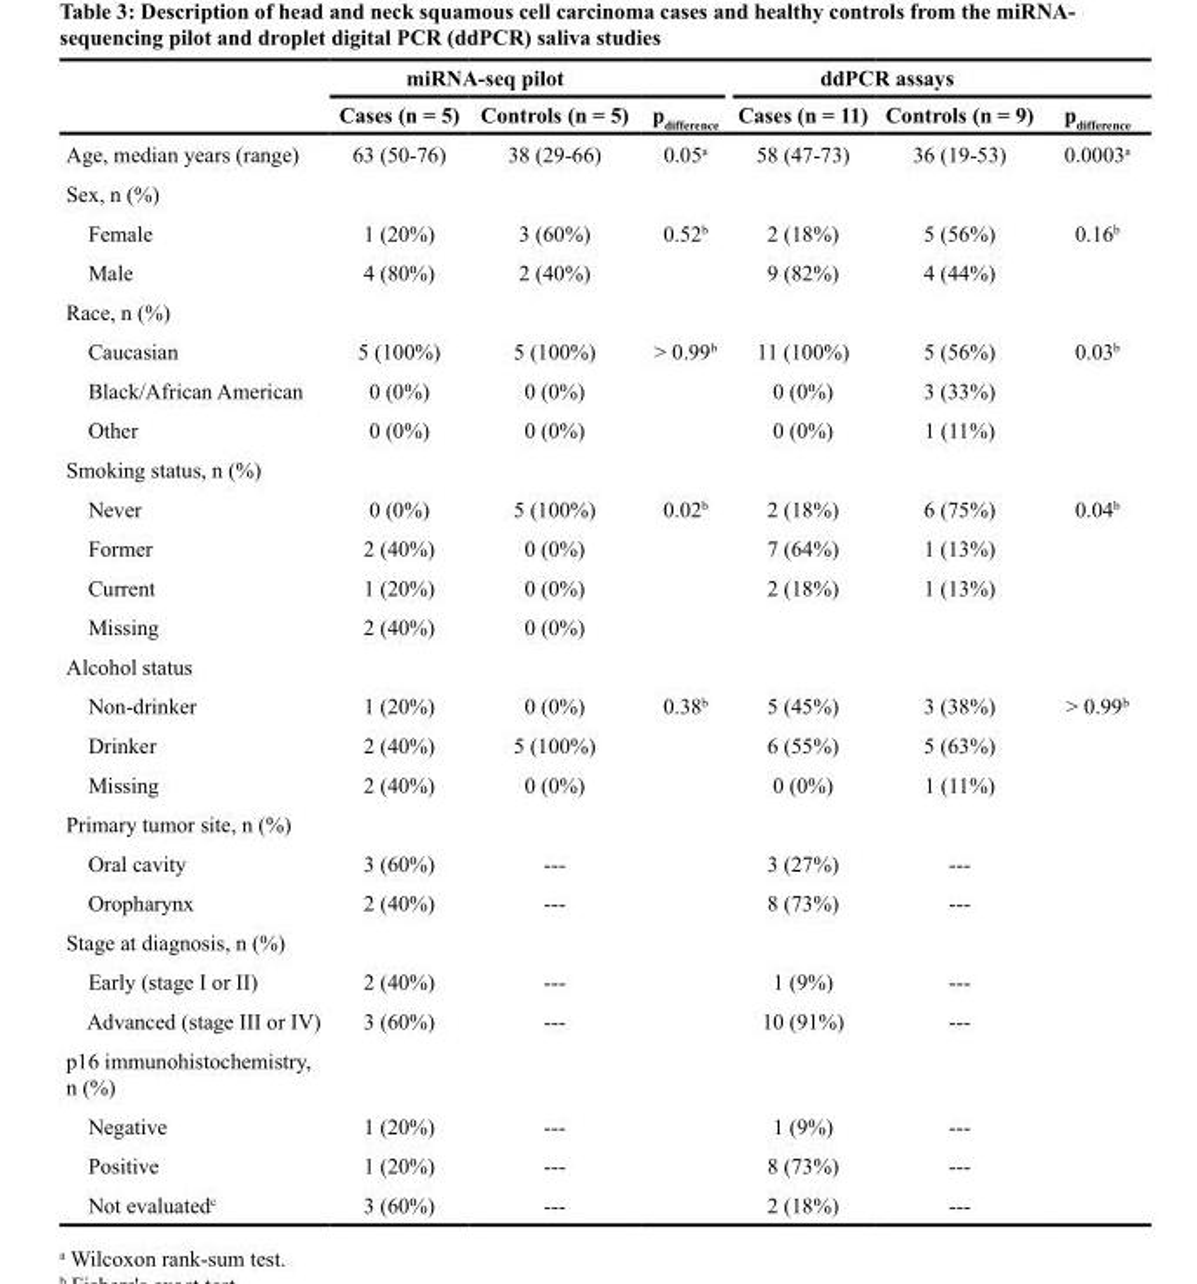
<table><thead><tr><td rowspan="2"></td><td colspan="2">miRNA-seq pilot</td><td rowspan="2">p<sub>difference</sub></td><td colspan="2">ddPCR assays</td><td rowspan="2">p<sub>difference</sub></td></tr><tr><td>Cases (n = 5)</td><td>Controls (n = 5)</td><td>Cases (n = 11)</td><td>Controls (n = 9)</td></tr></thead><tbody><tr><td>Age, median years (range)</td><td>63 (50-76)</td><td>38 (29-66)</td><td>0.05<sup>a</sup></td><td>58 (47-73)</td><td>36 (19-53)</td><td>0.0003<sup>a</sup></td></tr><tr><td colspan="7">Sex, n (%)</td></tr><tr><td>Female</td><td>1 (20%)</td><td>3 (60%)</td><td>0.52<sup>b</sup></td><td>2 (18%)</td><td>5 (56%)</td><td>0.16<sup>b</sup></td></tr><tr><td>Male</td><td>4 (80%)</td><td>2 (40%)</td><td></td><td>9 (82%)</td><td>4 (44%)</td><td></td></tr><tr><td colspan="7">Race, n (%)</td></tr><tr><td>Caucasian</td><td>5 (100%)</td><td>5 (100%)</td><td>&gt; 0.99<sup>b</sup></td><td>11 (100%)</td><td>5 (56%)</td><td>0.03<sup>b</sup></td></tr><tr><td>Black/African American</td><td>0 (0%)</td><td>0 (0%)</td><td></td><td>0 (0%)</td><td>3 (33%)</td><td></td></tr><tr><td>Other</td><td>0 (0%)</td><td>0 (0%)</td><td></td><td>0 (0%)</td><td>1 (11%)</td><td></td></tr><tr><td colspan="7">Smoking status, n (%)</td></tr><tr><td>Never</td><td>0 (0%)</td><td>5 (100%)</td><td>0.02<sup>b</sup></td><td>2 (18%)</td><td>6 (75%)</td><td>0.04<sup>b</sup></td></tr><tr><td>Former</td><td>2 (40%)</td><td>0 (0%)</td><td></td><td>7 (64%)</td><td>1 (13%)</td><td></td></tr><tr><td>Current</td><td>1 (20%)</td><td>0 (0%)</td><td></td><td>2 (18%)</td><td>1 (13%)</td><td></td></tr><tr><td>Missing</td><td>2 (40%)</td><td>0 (0%)</td><td></td><td></td><td></td><td></td></tr><tr><td colspan="7">Alcohol status</td></tr><tr><td>Non-drinker</td><td>1 (20%)</td><td>0 (0%)</td><td>0.38<sup>b</sup></td><td>5 (45%)</td><td>3 (38%)</td><td>&gt; 0.99<sup>b</sup></td></tr><tr><td>Drinker</td><td>2 (40%)</td><td>5 (100%)</td><td></td><td>6 (55%)</td><td>5 (63%)</td><td></td></tr><tr><td>Missing</td><td>2 (40%)</td><td>0 (0%)</td><td></td><td>0 (0%)</td><td>1 (11%)</td><td></td></tr><tr><td colspan="7">Primary tumor site, n (%)</td></tr><tr><td>Oral cavity</td><td>3 (60%)</td><td>---</td><td></td><td>3 (27%)</td><td>---</td><td></td></tr><tr><td>Oropharynx</td><td>2 (40%)</td><td>---</td><td></td><td>8 (73%)</td><td>---</td><td></td></tr><tr><td colspan="7">Stage at diagnosis, n (%)</td></tr><tr><td>Early (stage I or II)</td><td>2 (40%)</td><td>---</td><td></td><td>1 (9%)</td><td>---</td><td></td></tr><tr><td>Advanced (stage III or IV)</td><td>3 (60%)</td><td>---</td><td></td><td>10 (91%)</td><td>---</td><td></td></tr><tr><td colspan="7">p16 immunohistochemistry, n (%)</td></tr><tr><td>Negative</td><td>1 (20%)</td><td>---</td><td></td><td>1 (9%)</td><td>---</td><td></td></tr><tr><td>Positive</td><td>1 (20%)</td><td>---</td><td></td><td>8 (73%)</td><td>---</td><td></td></tr><tr><td>Not evaluated<sup>c</sup></td><td>3 (60%)</td><td>---</td><td></td><td>2 (18%)</td><td>---</td><td></td></tr></tbody></table>